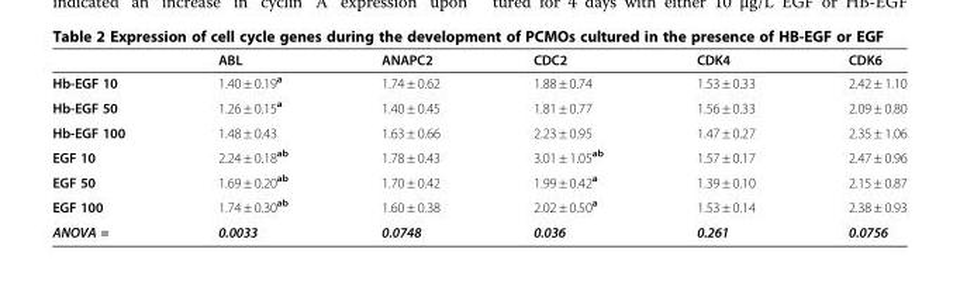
<table><thead><tr><td></td><td>ABL</td><td>ANAPC2</td><td>CDC2</td><td>CDK4</td><td>CDK6</td></tr></thead><tbody><tr><td>Hb-EGF 10</td><td>1.40 ± 0.19<sup>a</sup></td><td>1.74 ± 0.62</td><td>1.88 ± 0.74</td><td>1.53 ± 0.33</td><td>2.42 ± 1.10</td></tr><tr><td>Hb-EGF 50</td><td>1.26 ± 0.15<sup>a</sup></td><td>1.40 ± 0.45</td><td>1.81 ± 0.77</td><td>1.56 ± 0.33</td><td>2.09 ± 0.80</td></tr><tr><td>Hb-EGF 100</td><td>1.48 ± 0.43</td><td>1.63 ± 0.66</td><td>2.23 ± 0.95</td><td>1.47 ± 0.27</td><td>2.35 ± 1.06</td></tr><tr><td>EGF 10</td><td>2.24 ± 0.18<sup>ab</sup></td><td>1.78 ± 0.43</td><td>3.01 ± 1.05<sup>ab</sup></td><td>1.57 ± 0.17</td><td>2.47 ± 0.96</td></tr><tr><td>EGF 50</td><td>1.69 ± 0.20<sup>ab</sup></td><td>1.70 ± 0.42</td><td>1.99 ± 0.42<sup>a</sup></td><td>1.39 ± 0.10</td><td>2.15 ± 0.87</td></tr><tr><td>EGF 100</td><td>1.74 ± 0.30<sup>ab</sup></td><td>1.60 ± 0.38</td><td>2.02 ± 0.50<sup>a</sup></td><td>1.53 ± 0.14</td><td>2.38 ± 0.93</td></tr><tr><td>ANOVA =</td><td>0.0033</td><td>0.0748</td><td>0.036</td><td>0.261</td><td>0.0756</td></tr></tbody></table>